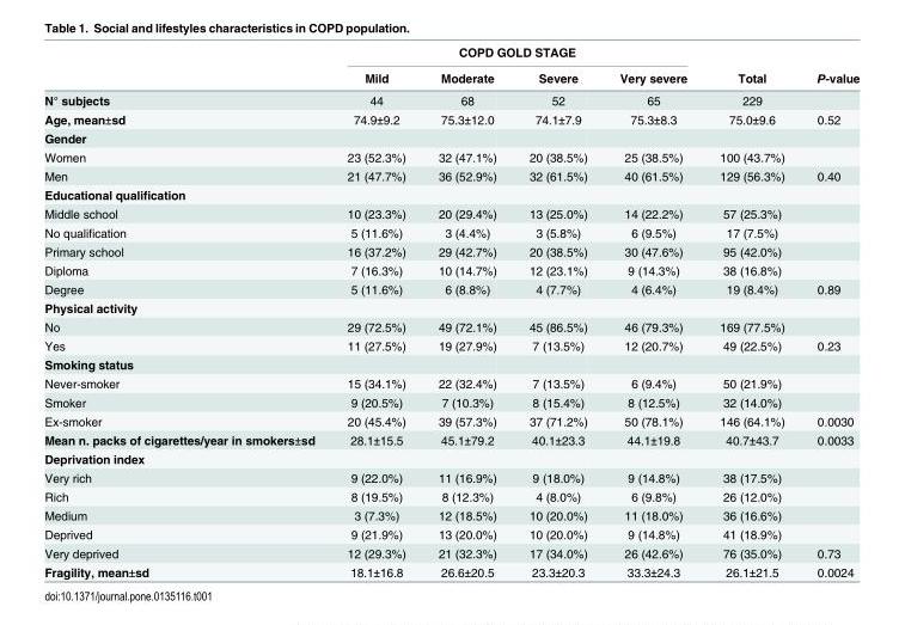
<table><thead><tr><td rowspan="2"></td><td colspan="4">COPD GOLD STAGE</td><td rowspan="2">Total</td><td rowspan="2">P-value</td></tr><tr><td>Mild</td><td>Moderate</td><td>Severe</td><td>Very severe</td></tr></thead><tbody><tr><td>N° subjects</td><td>44</td><td>68</td><td>52</td><td>65</td><td>229</td><td></td></tr><tr><td>Age, mean±sd</td><td>74.9±9.2</td><td>75.3±12.0</td><td>74.1±7.9</td><td>75.3±8.3</td><td>75.0±9.6</td><td>0.52</td></tr><tr><td colspan="7">Gender</td></tr><tr><td>Women</td><td>23 (52.3%)</td><td>32 (47.1%)</td><td>20 (38.5%)</td><td>25 (38.5%)</td><td>100 (43.7%)</td><td></td></tr><tr><td>Men</td><td>21 (47.7%)</td><td>36 (52.9%)</td><td>32 (61.5%)</td><td>40 (61.5%)</td><td>129 (56.3%)</td><td>0.40</td></tr><tr><td colspan="7">Educational qualification</td></tr><tr><td>Middle school</td><td>10 (23.3%)</td><td>20 (29.4%)</td><td>13 (25.0%)</td><td>14 (22.2%)</td><td>57 (25.3%)</td><td></td></tr><tr><td>No qualification</td><td>5 (11.6%)</td><td>3 (4.4%)</td><td>3 (5.8%)</td><td>6 (9.5%)</td><td>17 (7.5%)</td><td></td></tr><tr><td>Primary school</td><td>16 (37.2%)</td><td>29 (42.7%)</td><td>20 (38.5%)</td><td>30 (47.6%)</td><td>95 (42.0%)</td><td></td></tr><tr><td>Diploma</td><td>7 (16.3%)</td><td>10 (14.7%)</td><td>12 (23.1%)</td><td>9 (14.3%)</td><td>38 (16.8%)</td><td></td></tr><tr><td>Degree</td><td>5 (11.6%)</td><td>6 (8.8%)</td><td>4 (7.7%)</td><td>4 (6.4%)</td><td>19 (8.4%)</td><td>0.89</td></tr><tr><td colspan="7">Physical activity</td></tr><tr><td>No</td><td>29 (72.5%)</td><td>49 (72.1%)</td><td>45 (86.5%)</td><td>46 (79.3%)</td><td>169 (77.5%)</td><td></td></tr><tr><td>Yes</td><td>11 (27.5%)</td><td>19 (27.9%)</td><td>7 (13.5%)</td><td>12 (20.7%)</td><td>49 (22.5%)</td><td>0.23</td></tr><tr><td colspan="7">Smoking status</td></tr><tr><td>Never-smoker</td><td>15 (34.1%)</td><td>22 (32.4%)</td><td>7 (13.5%)</td><td>6 (9.4%)</td><td>50 (21.9%)</td><td></td></tr><tr><td>Smoker</td><td>9 (20.5%)</td><td>7 (10.3%)</td><td>8 (15.4%)</td><td>8 (12.5%)</td><td>32 (14.0%)</td><td></td></tr><tr><td>Ex-smoker</td><td>20 (45.4%)</td><td>39 (57.3%)</td><td>37 (71.2%)</td><td>50 (78.1%)</td><td>146 (64.1%)</td><td>0.0030</td></tr><tr><td>Mean n. packs of cigarettes/year in smokers±sd</td><td>28.1±15.5</td><td>45.1±79.2</td><td>40.1±23.3</td><td>44.1±19.8</td><td>40.7±43.7</td><td>0.0033</td></tr><tr><td colspan="7">Deprivation index</td></tr><tr><td>Very rich</td><td>9 (22.0%)</td><td>11 (16.9%)</td><td>9 (18.0%)</td><td>9 (14.8%)</td><td>38 (17.5%)</td><td></td></tr><tr><td>Rich</td><td>8 (19.5%)</td><td>8 (12.3%)</td><td>4 (8.0%)</td><td>6 (9.8%)</td><td>26 (12.0%)</td><td></td></tr><tr><td>Medium</td><td>3 (7.3%)</td><td>12 (18.5%)</td><td>10 (20.0%)</td><td>11 (18.0%)</td><td>36 (16.6%)</td><td></td></tr><tr><td>Deprived</td><td>9 (21.9%)</td><td>13 (20.0%)</td><td>10 (20.0%)</td><td>9 (14.8%)</td><td>41 (18.9%)</td><td></td></tr><tr><td>Very deprived</td><td>12 (29.3%)</td><td>21 (32.3%)</td><td>17 (34.0%)</td><td>26 (42.6%)</td><td>76 (35.0%)</td><td>0.73</td></tr><tr><td>Fragility, mean±sd</td><td>18.1±16.8</td><td>26.6±20.5</td><td>23.3±20.3</td><td>33.3±24.3</td><td>26.1±21.5</td><td>0.0024</td></tr></tbody></table>